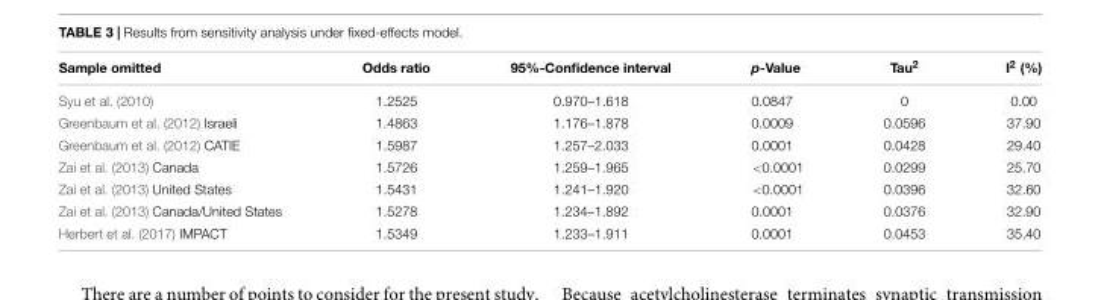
<table><thead><tr><td>Sample omitted</td><td>Odds ratio</td><td>95%-Confidence interval</td><td>p-Value</td><td>Tau<sup>2</sup></td><td>I<sup>2</sup> (%)</td></tr></thead><tbody><tr><td>Syu et al. (2010)</td><td>1.2525</td><td>0.970–1.618</td><td>0.0847</td><td>0</td><td>0.00</td></tr><tr><td>Greenbaum et al. (2012) Israeli</td><td>1.4863</td><td>1.176–1.878</td><td>0.0009</td><td>0.0596</td><td>37.90</td></tr><tr><td>Greenbaum et al. (2012) CATIE</td><td>1.5987</td><td>1.257–2.033</td><td>0.0001</td><td>0.0428</td><td>29.40</td></tr><tr><td>Zai et al. (2013) Canada</td><td>1.5726</td><td>1.259–1.965</td><td>&lt;0.0001</td><td>0.0299</td><td>25.70</td></tr><tr><td>Zai et al. (2013) United States</td><td>1.5431</td><td>1.241–1.920</td><td>&lt;0.0001</td><td>0.0396</td><td>32.60</td></tr><tr><td>Zai et al. (2013) Canada/United States</td><td>1.5278</td><td>1.234–1.892</td><td>0.0001</td><td>0.0376</td><td>32.90</td></tr><tr><td>Herbert et al. (2017) IMPACT</td><td>1.5349</td><td>1.233–1.911</td><td>0.0001</td><td>0.0453</td><td>35.40</td></tr></tbody></table>